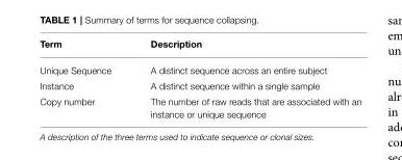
<table><thead><tr><td>Term</td><td>Description</td></tr></thead><tbody><tr><td>Unique Sequence</td><td>A distinct sequence across an entire subject</td></tr><tr><td>Instance</td><td>A distinct sequence within a single sample</td></tr><tr><td>Copy number</td><td>The number of raw reads that are associated with an instance or unique sequence</td></tr></tbody></table>